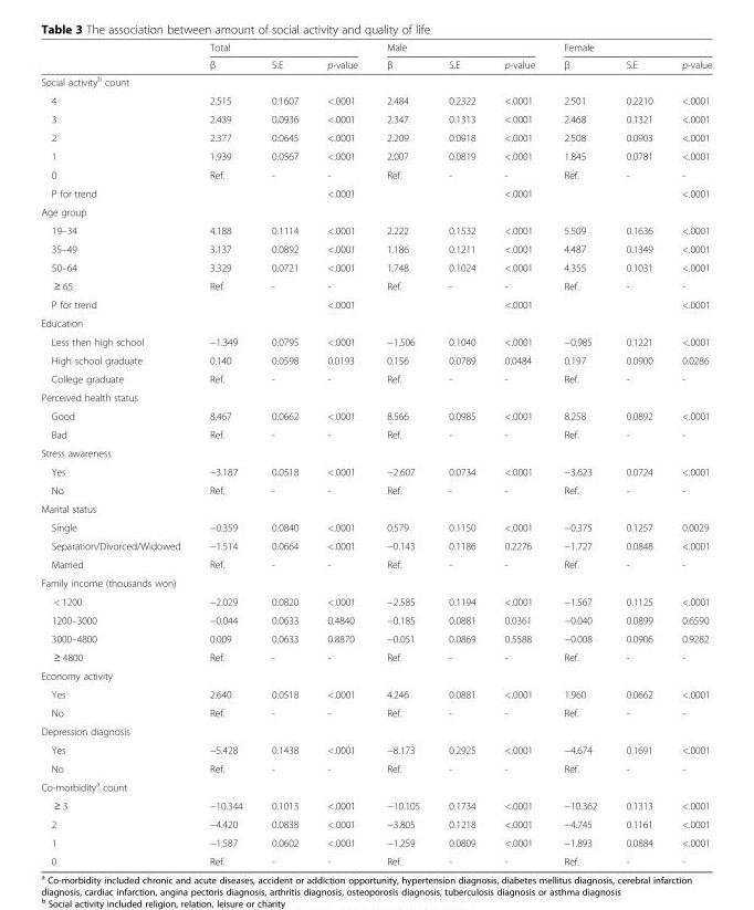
<table><thead><tr><td rowspan="2"></td><td colspan="3">Total</td><td colspan="3">Male</td><td colspan="3">Female</td></tr><tr><td>β</td><td>S.E</td><td>p-value</td><td>β</td><td>S.E</td><td>p-value</td><td>β</td><td>S.E</td><td>p-value</td></tr></thead><tbody><tr><td colspan="10">Social activity<sup>b</sup> count</td></tr><tr><td>4</td><td>2.515</td><td>0.1607</td><td>&lt;.0001</td><td>2.484</td><td>0.2322</td><td>&lt;.0001</td><td>2.501</td><td>0.2210</td><td>&lt;.0001</td></tr><tr><td>3</td><td>2.439</td><td>0.0936</td><td>&lt;.0001</td><td>2.347</td><td>0.1313</td><td>&lt;.0001</td><td>2.468</td><td>0.1321</td><td>&lt;.0001</td></tr><tr><td>2</td><td>2.377</td><td>0.0645</td><td>&lt;.0001</td><td>2.209</td><td>0.0918</td><td>&lt;.0001</td><td>2.508</td><td>0.0903</td><td>&lt;.0001</td></tr><tr><td>1</td><td>1.939</td><td>0.0567</td><td>&lt;.0001</td><td>2.007</td><td>0.0819</td><td>&lt;.0001</td><td>1.845</td><td>0.0781</td><td>&lt;.0001</td></tr><tr><td>0</td><td>Ref.</td><td>-</td><td>-</td><td>Ref.</td><td>-</td><td>-</td><td>Ref.</td><td>-</td><td>-</td></tr><tr><td>P for trend</td><td></td><td></td><td>&lt;.0001</td><td></td><td></td><td>&lt;.0001</td><td></td><td></td><td>&lt;.0001</td></tr><tr><td colspan="10">Age group</td></tr><tr><td>19–34</td><td>4.188</td><td>0.1114</td><td>&lt;.0001</td><td>2.222</td><td>0.1532</td><td>&lt;.0001</td><td>5.509</td><td>0.1636</td><td>&lt;.0001</td></tr><tr><td>35–49</td><td>3.137</td><td>0.0892</td><td>&lt;.0001</td><td>1.186</td><td>0.1211</td><td>&lt;.0001</td><td>4.487</td><td>0.1349</td><td>&lt;.0001</td></tr><tr><td>50–64</td><td>3.329</td><td>0.0721</td><td>&lt;.0001</td><td>1.748</td><td>0.1024</td><td>&lt;.0001</td><td>4.355</td><td>0.1031</td><td>&lt;.0001</td></tr><tr><td>≥ 65</td><td>Ref.</td><td>-</td><td>-</td><td>Ref.</td><td>-</td><td>-</td><td>Ref.</td><td>-</td><td>-</td></tr><tr><td>P for trend</td><td></td><td></td><td>&lt;.0001</td><td></td><td></td><td>&lt;.0001</td><td></td><td></td><td>&lt;.0001</td></tr><tr><td colspan="10">Education</td></tr><tr><td>Less then high school</td><td>−1.349</td><td>0.0795</td><td>&lt;.0001</td><td>−1.506</td><td>0.1040</td><td>&lt;.0001</td><td>−0.985</td><td>0.1221</td><td>&lt;.0001</td></tr><tr><td>High school graduate</td><td>0.140</td><td>0.0598</td><td>0.0193</td><td>0.156</td><td>0.0789</td><td>0.0484</td><td>0.197</td><td>0.0900</td><td>0.0286</td></tr><tr><td>College graduate</td><td>Ref.</td><td>-</td><td>-</td><td>Ref.</td><td>-</td><td>-</td><td>Ref.</td><td>-</td><td>-</td></tr><tr><td colspan="10">Perceived health status</td></tr><tr><td>Good</td><td>8.467</td><td>0.0662</td><td>&lt;.0001</td><td>8.566</td><td>0.0985</td><td>&lt;.0001</td><td>8.258</td><td>0.0892</td><td>&lt;.0001</td></tr><tr><td>Bad</td><td>Ref.</td><td>-</td><td>-</td><td>Ref.</td><td>-</td><td>-</td><td>Ref.</td><td>-</td><td>-</td></tr><tr><td colspan="10">Stress awareness</td></tr><tr><td>Yes</td><td>−3.187</td><td>0.0518</td><td>&lt;.0001</td><td>−2.607</td><td>0.0734</td><td>&lt;.0001</td><td>−3.623</td><td>0.0724</td><td>&lt;.0001</td></tr><tr><td>No</td><td>Ref.</td><td>-</td><td>-</td><td>Ref.</td><td>-</td><td>-</td><td>Ref.</td><td>-</td><td>-</td></tr><tr><td colspan="10">Marital status</td></tr><tr><td>Single</td><td>−0.359</td><td>0.0840</td><td>&lt;.0001</td><td>0.579</td><td>0.1150</td><td>&lt;.0001</td><td>−0.375</td><td>0.1257</td><td>0.0029</td></tr><tr><td>Separation/Divorced/Widowed</td><td>−1.514</td><td>0.0664</td><td>&lt;.0001</td><td>−0.143</td><td>0.1186</td><td>0.2276</td><td>−1.727</td><td>0.0848</td><td>&lt;.0001</td></tr><tr><td>Married</td><td>Ref.</td><td>-</td><td>-</td><td>Ref.</td><td>-</td><td>-</td><td>Ref.</td><td>-</td><td>-</td></tr><tr><td colspan="10">Family income (thousands won)</td></tr><tr><td>&lt; 1200</td><td>−2.029</td><td>0.0820</td><td>&lt;.0001</td><td>−2.585</td><td>0.1194</td><td>&lt;.0001</td><td>−1.567</td><td>0.1125</td><td>&lt;.0001</td></tr><tr><td>1200–3000</td><td>−0.044</td><td>0.0633</td><td>0.4840</td><td>−0.185</td><td>0.0881</td><td>0.0361</td><td>−0.040</td><td>0.0899</td><td>0.6590</td></tr><tr><td>3000–4800</td><td>0.009</td><td>0.0633</td><td>0.8870</td><td>−0.051</td><td>0.0869</td><td>0.5588</td><td>−0.008</td><td>0.0906</td><td>0.9282</td></tr><tr><td>≥ 4800</td><td>Ref.</td><td>-</td><td>-</td><td>Ref.</td><td>-</td><td>-</td><td>Ref.</td><td>-</td><td>-</td></tr><tr><td colspan="10">Economy activity</td></tr><tr><td>Yes</td><td>2.640</td><td>0.0518</td><td>&lt;.0001</td><td>4.246</td><td>0.0881</td><td>&lt;.0001</td><td>1.960</td><td>0.0662</td><td>&lt;.0001</td></tr><tr><td>No</td><td>Ref.</td><td>-</td><td>-</td><td>Ref.</td><td>-</td><td>-</td><td>Ref.</td><td>-</td><td>-</td></tr><tr><td colspan="10">Depression diagnosis</td></tr><tr><td>Yes</td><td>−5.428</td><td>0.1438</td><td>&lt;.0001</td><td>−8.173</td><td>0.2925</td><td>&lt;.0001</td><td>−4.674</td><td>0.1691</td><td>&lt;.0001</td></tr><tr><td>No</td><td>Ref.</td><td>-</td><td>-</td><td>Ref.</td><td>-</td><td>-</td><td>Ref.</td><td>-</td><td>-</td></tr><tr><td colspan="10">Co-morbidity<sup>a</sup> count</td></tr><tr><td>≥ 3</td><td>−10.344</td><td>0.1013</td><td>&lt;.0001</td><td>−10.105</td><td>0.1734</td><td>&lt;.0001</td><td>−10.362</td><td>0.1313</td><td>&lt;.0001</td></tr><tr><td>2</td><td>−4.420</td><td>0.0838</td><td>&lt;.0001</td><td>−3.805</td><td>0.1218</td><td>&lt;.0001</td><td>−4.745</td><td>0.1161</td><td>&lt;.0001</td></tr><tr><td>1</td><td>−1.587</td><td>0.0602</td><td>&lt;.0001</td><td>−1.259</td><td>0.0809</td><td>&lt;.0001</td><td>−1.893</td><td>0.0884</td><td>&lt;.0001</td></tr><tr><td>0</td><td>Ref.</td><td>-</td><td>-</td><td>Ref.</td><td>-</td><td>-</td><td>Ref.</td><td>-</td><td>-</td></tr></tbody></table>